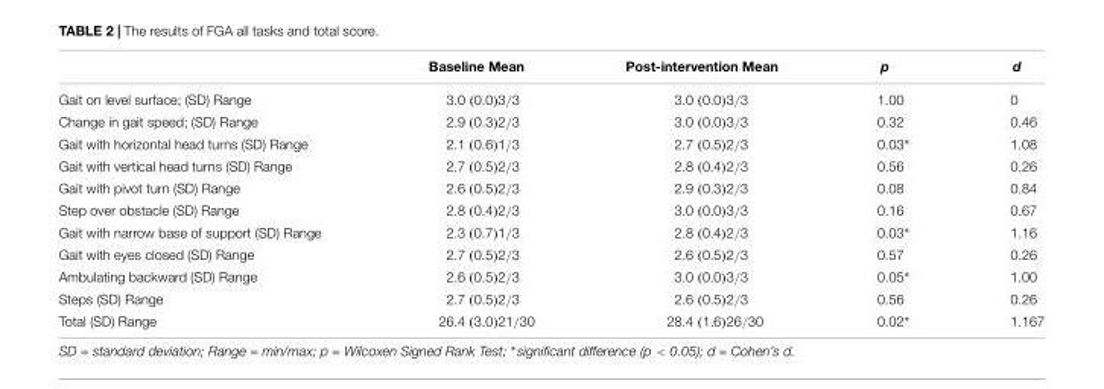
<table><thead><tr><td></td><td>Baseline Mean</td><td>Post-intervention Mean</td><td>p</td><td>d</td></tr></thead><tbody><tr><td>Gait on level surface; (SD) Range</td><td>3.0 (0.0)3/3</td><td>3.0 (0.0)3/3</td><td>1.00</td><td>0</td></tr><tr><td>Change in gait speed; (SD) Range</td><td>2.9 (0.3)2/3</td><td>3.0 (0.0)3/3</td><td>0.32</td><td>0.46</td></tr><tr><td>Gait with horizontal head turns (SD) Range</td><td>2.1 (0.6)1/3</td><td>2.7 (0.5)2/3</td><td>0.03∗</td><td>1.08</td></tr><tr><td>Gait with vertical head turns (SD) Range</td><td>2.7 (0.5)2/3</td><td>2.8 (0.4)2/3</td><td>0.56</td><td>0.26</td></tr><tr><td>Gait with pivot turn (SD) Range</td><td>2.6 (0.5)2/3</td><td>2.9 (0.3)2/3</td><td>0.08</td><td>0.84</td></tr><tr><td>Step over obstacle (SD) Range</td><td>2.8 (0.4)2/3</td><td>3.0 (0.0)3/3</td><td>0.16</td><td>0.67</td></tr><tr><td>Gait with narrow base of support (SD) Range</td><td>2.3 (0.7)1/3</td><td>2.8 (0.4)2/3</td><td>0.03∗</td><td>1.16</td></tr><tr><td>Gait with eyes closed (SD) Range</td><td>2.7 (0.5)2/3</td><td>2.6 (0.5)2/3</td><td>0.57</td><td>0.26</td></tr><tr><td>Ambulating backward (SD) Range</td><td>2.6 (0.5)2/3</td><td>3.0 (0.0)3/3</td><td>0.05∗</td><td>1.00</td></tr><tr><td>Steps (SD) Range</td><td>2.7 (0.5)2/3</td><td>2.6 (0.5)2/3</td><td>0.56</td><td>0.26</td></tr><tr><td>Total (SD) Range</td><td>26.4 (3.0)21/30</td><td>28.4 (1.6)26/30</td><td>0.02∗</td><td>1.167</td></tr></tbody></table>